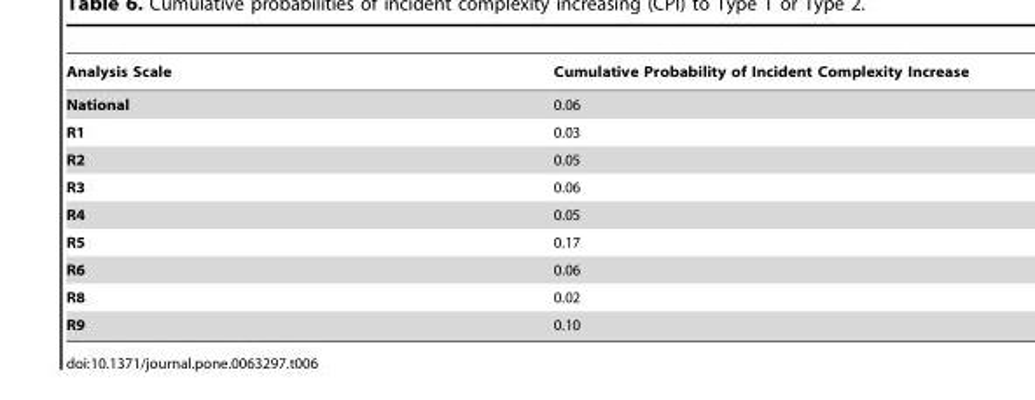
<table><thead><tr><td>Analysis Scale</td><td>Cumulative Probability of Incident Complexity Increase</td></tr></thead><tbody><tr><td>National</td><td>0.06</td></tr><tr><td>R1</td><td>0.03</td></tr><tr><td>R2</td><td>0.05</td></tr><tr><td>R3</td><td>0.06</td></tr><tr><td>R4</td><td>0.05</td></tr><tr><td>R5</td><td>0.17</td></tr><tr><td>R6</td><td>0.06</td></tr><tr><td>R8</td><td>0.02</td></tr><tr><td>R9</td><td>0.10</td></tr></tbody></table>